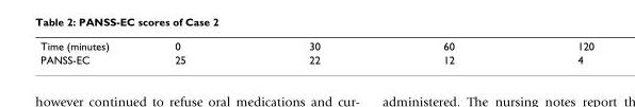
<table><tbody><tr><td>Time (minutes)</td><td>0</td><td>30</td><td>60</td><td>120</td></tr><tr><td>PANSS-EC</td><td>25</td><td>22</td><td>12</td><td>4</td></tr></tbody></table>